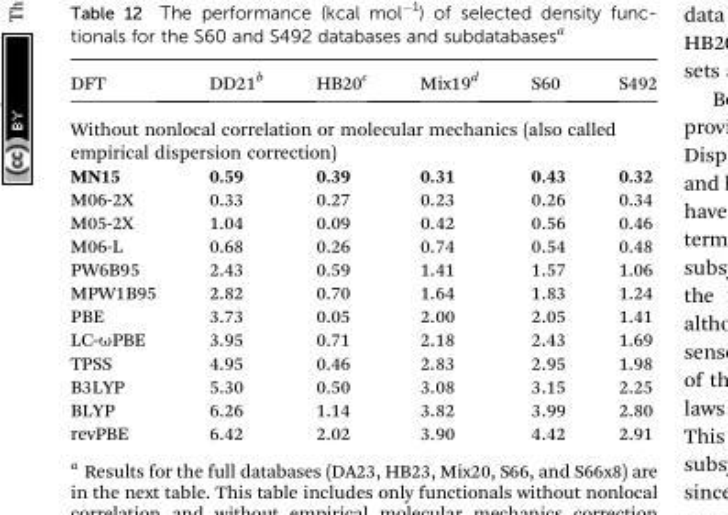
<table><thead><tr><td>DFT</td><td>DD21<sup>b</sup></td><td>HB20<sup>c</sup></td><td>Mix19<sup>d</sup></td><td>S60</td><td>S492</td></tr></thead><tbody><tr><td colspan="6">Without nonlocal correlation or molecular mechanics (also called empirical dispersion correction)</td></tr><tr><td>MN15</td><td>0.59</td><td>0.39</td><td>0.31</td><td>0.43</td><td>0.32</td></tr><tr><td>M06-2X</td><td>0.33</td><td>0.27</td><td>0.23</td><td>0.26</td><td>0.34</td></tr><tr><td>M05-2X</td><td>1.04</td><td>0.09</td><td>0.42</td><td>0.56</td><td>0.46</td></tr><tr><td>M06-L</td><td>0.68</td><td>0.26</td><td>0.74</td><td>0.54</td><td>0.48</td></tr><tr><td>PW6B95</td><td>2.43</td><td>0.59</td><td>1.41</td><td>1.57</td><td>1.06</td></tr><tr><td>MPW1B95</td><td>2.82</td><td>0.70</td><td>1.64</td><td>1.83</td><td>1.24</td></tr><tr><td>PBE</td><td>3.73</td><td>0.05</td><td>2.00</td><td>2.05</td><td>1.41</td></tr><tr><td>LC-ωPBE</td><td>3.95</td><td>0.71</td><td>2.18</td><td>2.43</td><td>1.69</td></tr><tr><td>TPSS</td><td>4.95</td><td>0.46</td><td>2.83</td><td>2.95</td><td>1.98</td></tr><tr><td>B3LYP</td><td>5.30</td><td>0.50</td><td>3.08</td><td>3.15</td><td>2.25</td></tr><tr><td>BLYP</td><td>6.26</td><td>1.14</td><td>3.82</td><td>3.99</td><td>2.80</td></tr><tr><td>revPBE</td><td>6.42</td><td>2.02</td><td>3.90</td><td>4.42</td><td>2.91</td></tr></tbody></table>